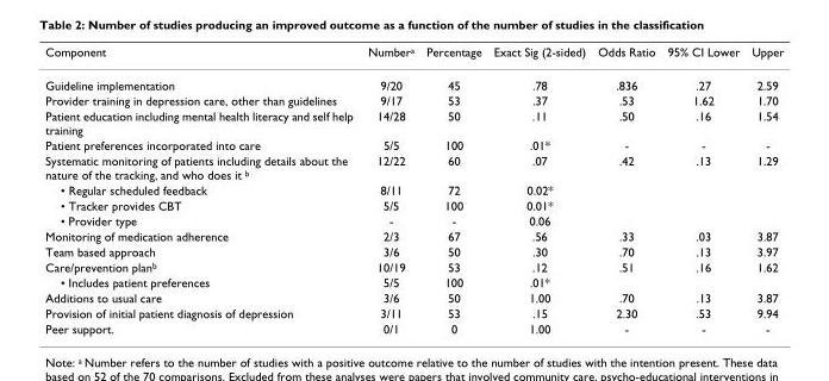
<table><thead><tr><td>Component</td><td>Number<sup>a</sup></td><td>Percentage</td><td>Exact Sig (2-sided)</td><td>Odds Ratio</td><td>95% CI Lower</td><td>Upper</td></tr></thead><tbody><tr><td>Guideline implementation</td><td>9/20</td><td>45</td><td>.78</td><td>.836</td><td>.27</td><td>2.59</td></tr><tr><td>Provider training in depression care, other than guidelines</td><td>9/17</td><td>53</td><td>.37</td><td>.53</td><td>1.62</td><td>1.70</td></tr><tr><td>Patient education including mental health literacy and self help training</td><td>14/28</td><td>50</td><td>.11</td><td>.50</td><td>.16</td><td>1.54</td></tr><tr><td>Patient preferences incorporated into care</td><td>5/5</td><td>100</td><td>.01*</td><td>-</td><td>-</td><td>-</td></tr><tr><td>Systematic monitoring of patients including details about the nature of the tracking, and who does it <sup>b</sup></td><td>12/22</td><td>60</td><td>.07</td><td>.42</td><td>.13</td><td>1.29</td></tr><tr><td>• Regular scheduled feedback</td><td>8/11</td><td>72</td><td>0.02*</td><td></td><td></td><td></td></tr><tr><td>• Tracker provides CBT</td><td>5/5</td><td>100</td><td>0.01*</td><td></td><td></td><td></td></tr><tr><td>• Provider type</td><td>-</td><td>-</td><td>0.06</td><td></td><td></td><td></td></tr><tr><td>Monitoring of medication adherence</td><td>2/3</td><td>67</td><td>.56</td><td>.33</td><td>.03</td><td>3.87</td></tr><tr><td>Team based approach</td><td>3/6</td><td>50</td><td>.30</td><td>.70</td><td>.13</td><td>3.97</td></tr><tr><td>Care/prevention plan<sup>b</sup></td><td>10/19</td><td>53</td><td>.12</td><td>.51</td><td>.16</td><td>1.62</td></tr><tr><td>• Includes patient preferences</td><td>5/5</td><td>100</td><td>.01*</td><td></td><td></td><td></td></tr><tr><td>Additions to usual care</td><td>3/6</td><td>50</td><td>1.00</td><td>.70</td><td>.13</td><td>3.87</td></tr><tr><td>Provision of initial patient diagnosis of depression</td><td>3/11</td><td>53</td><td>.15</td><td>2.30</td><td>.53</td><td>9.94</td></tr><tr><td>Peer support.</td><td>0/1</td><td>0</td><td>1.00</td><td>-</td><td>-</td><td>-</td></tr></tbody></table>